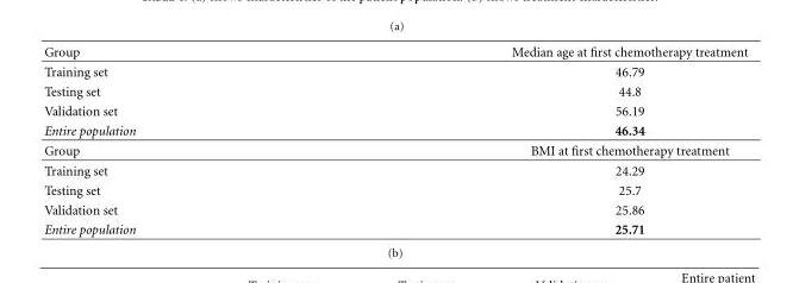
<table><thead><tr><td>Group</td><td>Median age at first chemotherapy treatment</td></tr></thead><tbody><tr><td>Training set</td><td>46.79</td></tr><tr><td>Testing set</td><td>44.8</td></tr><tr><td>Validation set</td><td>56.19</td></tr><tr><td>Entire population</td><td>46.34</td></tr><tr><td>Group</td><td>BMI at first chemotherapy treatment</td></tr><tr><td>Training set</td><td>24.29</td></tr><tr><td>Testing set</td><td>25.7</td></tr><tr><td>Validation set</td><td>25.86</td></tr><tr><td>Entire population</td><td>25.71</td></tr></tbody></table>